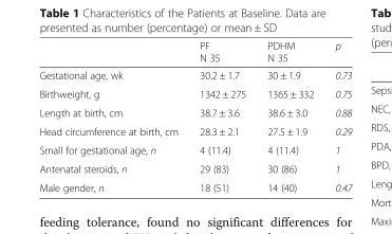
<table><thead><tr><td></td><td>PF N 35</td><td>PDHM N 35</td><td>p</td></tr></thead><tbody><tr><td>Gestational age, wk</td><td>30.2 ± 1.7</td><td>30 ± 1.9</td><td>0.73</td></tr><tr><td>Birthweight, g</td><td>1342 ± 275</td><td>1365 ± 332</td><td>0.75</td></tr><tr><td>Length at birth, cm</td><td>38.7 ± 3.6</td><td>38.6 ± 3.0</td><td>0.88</td></tr><tr><td>Head circumference at birth, cm</td><td>28.3 ± 2.1</td><td>27.5 ± 1.9</td><td>0.29</td></tr><tr><td>Small for gestational age, n</td><td>4 (11.4)</td><td>4 (11.4)</td><td>1</td></tr><tr><td>Antenatal steroids, n</td><td>29 (83)</td><td>30 (86)</td><td>1</td></tr><tr><td>Male gender, n</td><td>18 (51)</td><td>14 (40)</td><td>0.47</td></tr></tbody></table>